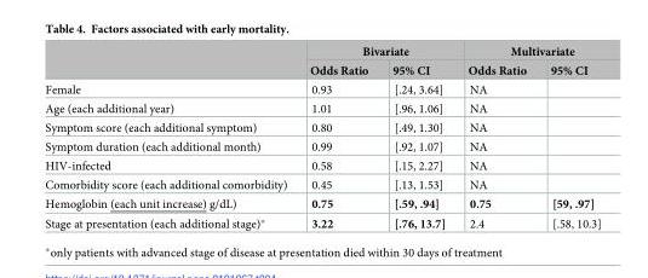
<table><thead><tr><td rowspan="2"></td><td colspan="2">Bivariate</td><td colspan="2">Multivariate</td></tr><tr><td>Odds Ratio</td><td>95% CI</td><td>Odds Ratio</td><td>95% CI</td></tr></thead><tbody><tr><td>Female</td><td>0.93</td><td>[.24, 3.64]</td><td>NA</td><td></td></tr><tr><td>Age (each additional year)</td><td>1.01</td><td>[.96, 1.06]</td><td>NA</td><td></td></tr><tr><td>Symptom score (each additional symptom)</td><td>0.80</td><td>[.49, 1.30]</td><td>NA</td><td></td></tr><tr><td>Symptom duration (each additional month)</td><td>0.99</td><td>[.92, 1.07]</td><td>NA</td><td></td></tr><tr><td>HIV-infected</td><td>0.58</td><td>[.15, 2.27]</td><td>NA</td><td></td></tr><tr><td>Comorbidity score (each additional comorbidity)</td><td>0.45</td><td>[.13, 1.53]</td><td>NA</td><td></td></tr><tr><td>Hemoglobin (each unit increase) g/dL)</td><td>0.75</td><td>[.59, .94]</td><td>0.75</td><td>[59, .97]</td></tr><tr><td>Stage at presentation (each additional stage)*</td><td>3.22</td><td>[.76, 13.7]</td><td>2.4</td><td>[.58, 10.3]</td></tr></tbody></table>